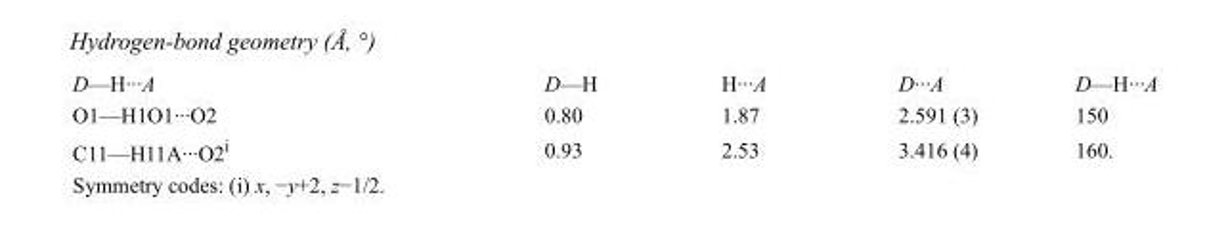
<table><tbody><tr><td>D—H···A</td><td>D—H</td><td>H···A</td><td>D···A</td><td>D—H···A</td></tr><tr><td>O1—H1O1···O2</td><td>0.80</td><td>1.87</td><td>2.591 (3)</td><td>150</td></tr><tr><td>C11—H11A···O2<sup>i</sup></td><td>0.93</td><td>2.53</td><td>3.416 (4)</td><td>160.</td></tr></tbody></table>